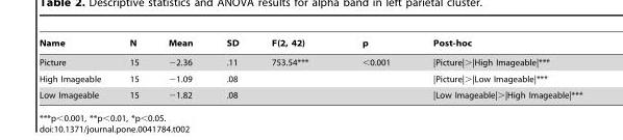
<table><thead><tr><td>Name</td><td>N</td><td>Mean</td><td>SD</td><td>F(2, 42)</td><td>p</td><td>Post-hoc</td></tr></thead><tbody><tr><td>Picture</td><td>15</td><td>−2.36</td><td>.11</td><td>753.54***</td><td>&lt;0.001</td><td>|Picture|&gt;|High Imageable|***</td></tr><tr><td>High Imageable</td><td>15</td><td>−1.09</td><td>.08</td><td></td><td></td><td>|Picture|&gt;|Low Imageable|***</td></tr><tr><td>Low Imageable</td><td>15</td><td>−1.82</td><td>.08</td><td></td><td></td><td>|Low Imageable|&gt;|High Imageable|***</td></tr></tbody></table>